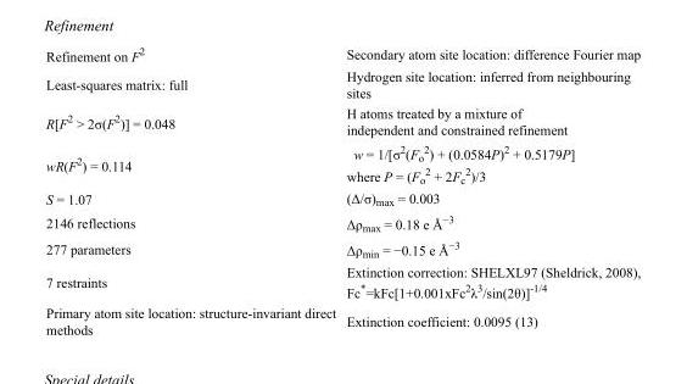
<table><tbody><tr><td>Refinement on F<sup>2</sup></td><td>Secondary atom site location: difference Fourier map</td></tr><tr><td>Least-squares matrix: full</td><td>Hydrogen site location: inferred from neighbouring sites</td></tr><tr><td>R[F<sup>2</sup> &gt; 2σ(F<sup>2</sup>)] = 0.048</td><td>H atoms treated by a mixture of independent and constrained refinement</td></tr><tr><td>wR(F<sup>2</sup>) = 0.114</td><td>w = 1/[σ<sup>2</sup>(F<sub>o</sub> <sup>2</sup>) + (0.0584P)<sup>2</sup> + 0.5179P] where P = (F<sub>o</sub> <sup>2</sup> + 2F<sub>c</sub> <sup>2</sup>)/3</td></tr><tr><td>S = 1.07</td><td>(Δ/σ)<sub>max</sub> = 0.003</td></tr><tr><td>2146 reflections</td><td>Δρ<sub>max</sub> = 0.18 e Å<sup>−3</sup></td></tr><tr><td>277 parameters</td><td>Δρ<sub>min</sub> = −0.15 e Å<sup>−3</sup></td></tr><tr><td>7 restraints</td><td>Extinction correction: SHELXL97 (Sheldrick, 2008), Fc*=kFc[1+0.001xFc<sup>2</sup>λ<sup>3</sup>/sin(2θ)]<sup>-1/4</sup></td></tr><tr><td>Primary atom site location: structure-invariant direct methods</td><td>Extinction coefficient: 0.0095 (13)</td></tr></tbody></table>